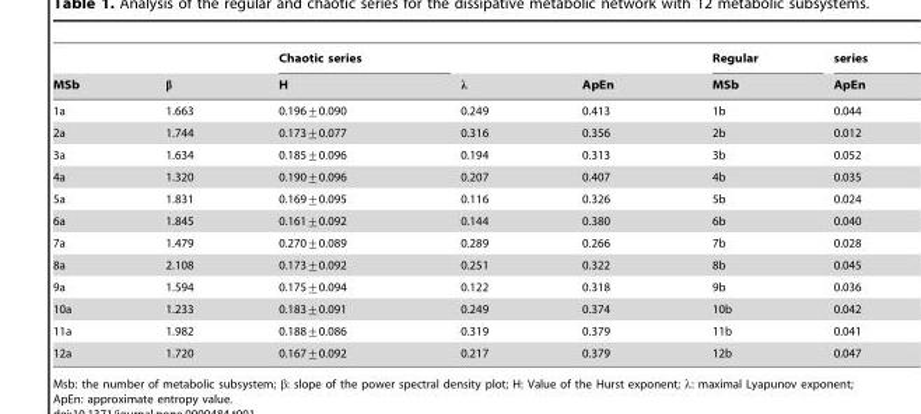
<table><thead><tr><td rowspan="2">MSb</td><td rowspan="2">β</td><td rowspan="2">Chaotic series H</td><td rowspan="2">λ</td><td rowspan="2">ApEn</td><td rowspan="2">Regular MSb</td><td rowspan="2">series ApEn</td></tr><tr></tr></thead><tbody><tr><td>1a</td><td>1.663</td><td>0.196+0.090</td><td>0.249</td><td>0.413</td><td>1b</td><td>0.044</td></tr><tr><td>2a</td><td>1.744</td><td>0.173+0.077</td><td>0.316</td><td>0.356</td><td>2b</td><td>0.012</td></tr><tr><td>3a</td><td>1.634</td><td>0.185+0.096</td><td>0.194</td><td>0.313</td><td>3b</td><td>0.052</td></tr><tr><td>4a</td><td>1.320</td><td>0.190+0.096</td><td>0.207</td><td>0.407</td><td>4b</td><td>0.035</td></tr><tr><td>5a</td><td>1.831</td><td>0.169+0.095</td><td>0.116</td><td>0.326</td><td>5b</td><td>0.024</td></tr><tr><td>6a</td><td>1.845</td><td>0.161+0.092</td><td>0.144</td><td>0.380</td><td>6b</td><td>0.040</td></tr><tr><td>7a</td><td>1.479</td><td>0.270+0.089</td><td>0.289</td><td>0.266</td><td>7b</td><td>0.028</td></tr><tr><td>8a</td><td>2.108</td><td>0.173+0.092</td><td>0.251</td><td>0.322</td><td>8b</td><td>0.045</td></tr><tr><td>9a</td><td>1.594</td><td>0.175+0.094</td><td>0.122</td><td>0.318</td><td>9b</td><td>0.036</td></tr><tr><td>10a</td><td>1.233</td><td>0.183+0.091</td><td>0.249</td><td>0.374</td><td>10b</td><td>0.042</td></tr><tr><td>11a</td><td>1.982</td><td>0.188+0.086</td><td>0.319</td><td>0.379</td><td>11b</td><td>0.041</td></tr><tr><td>12a</td><td>1.720</td><td>0.167+0.092</td><td>0.217</td><td>0.379</td><td>12b</td><td>0.047</td></tr></tbody></table>